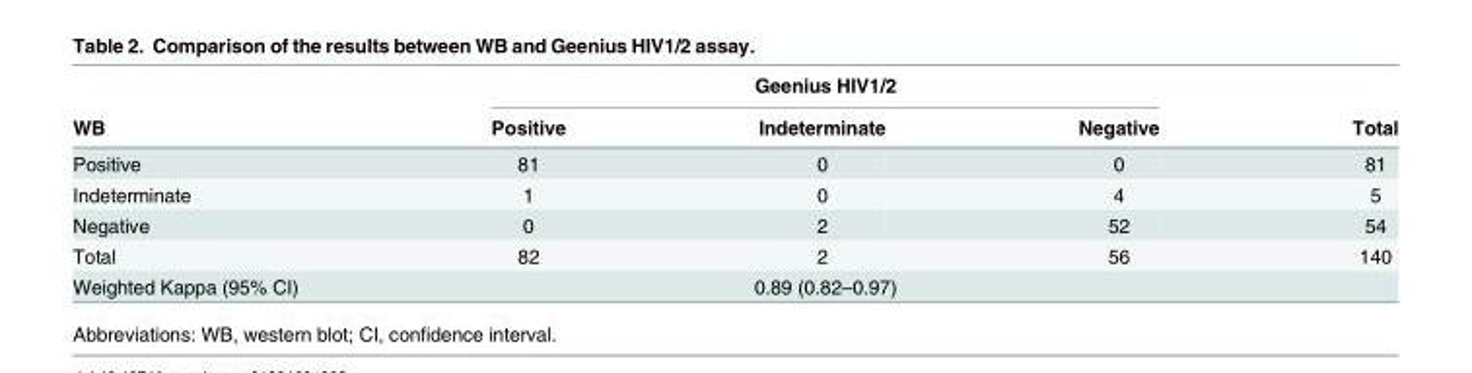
<table><thead><tr><td rowspan="2">WB</td><td colspan="3">Geenius HIV1/2</td><td rowspan="2">Total</td></tr><tr><td>Positive</td><td>Indeterminate</td><td>Negative</td></tr></thead><tbody><tr><td>Positive</td><td>81</td><td>0</td><td>0</td><td>81</td></tr><tr><td>Indeterminate</td><td>1</td><td>0</td><td>4</td><td>5</td></tr><tr><td>Negative</td><td>0</td><td>2</td><td>52</td><td>54</td></tr><tr><td>Total</td><td>82</td><td>2</td><td>56</td><td>140</td></tr><tr><td>Weighted Kappa (95% CI)</td><td colspan="3">0.89 (0.82–0.97)</td><td></td></tr></tbody></table>